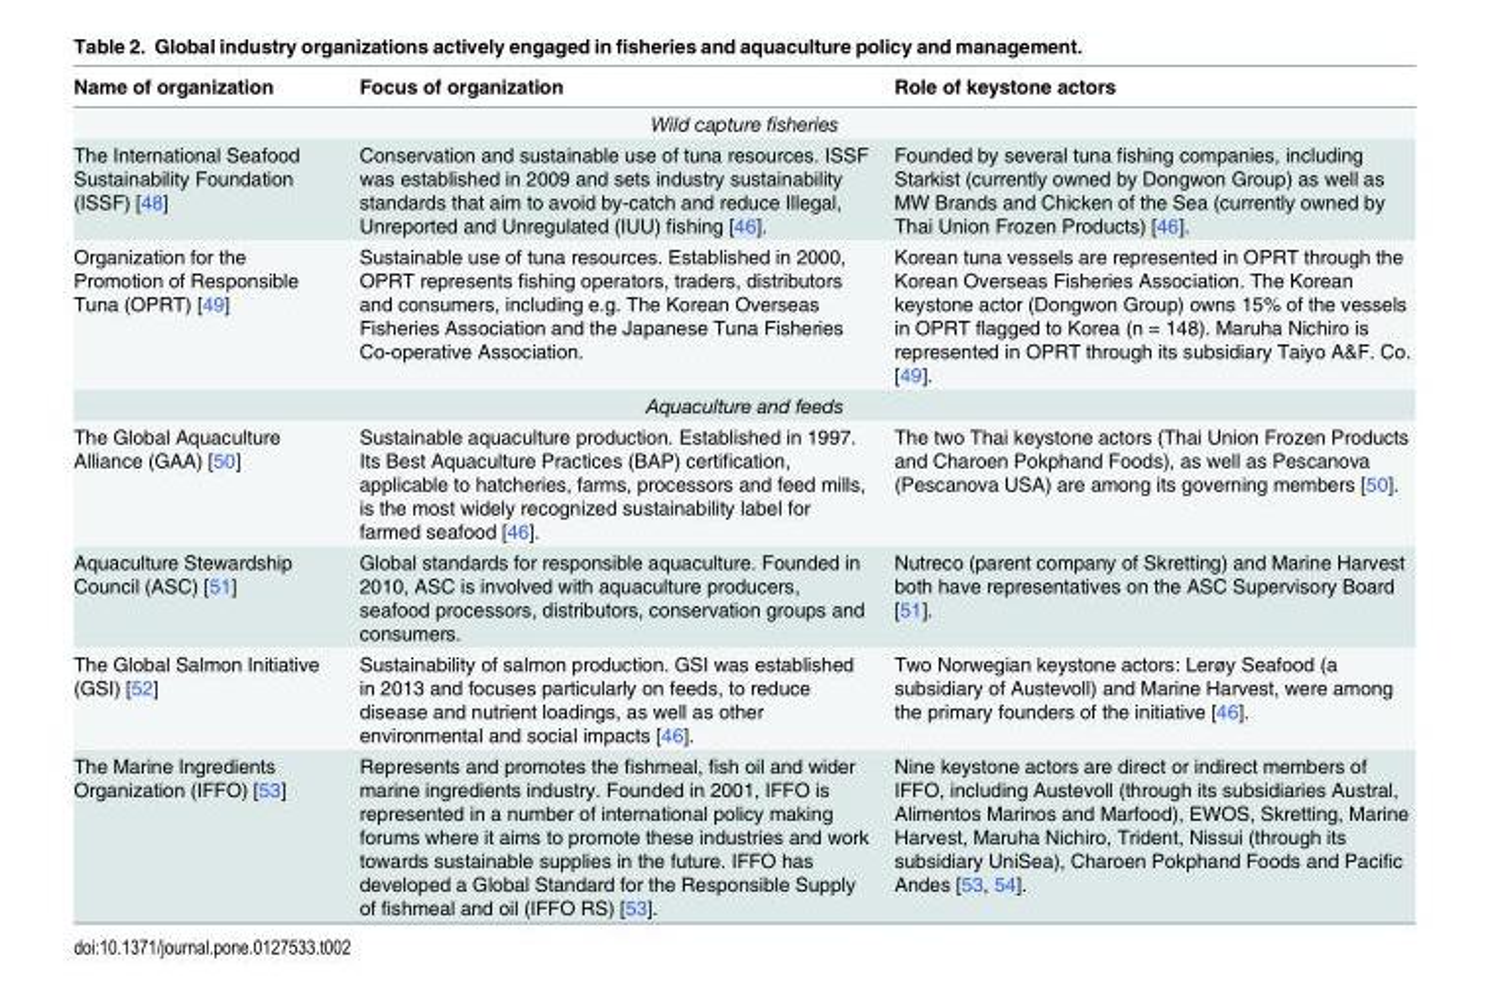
<table><thead><tr><td>Name of organization</td><td>Focus of organization</td><td>Role of keystone actors</td></tr></thead><tbody><tr><td colspan="3">Wild capture fisheries</td></tr><tr><td>The International Seafood Sustainability Foundation (ISSF) [48]</td><td>Conservation and sustainable use of tuna resources. ISSF was established in 2009 and sets industry sustainability standards that aim to avoid by-catch and reduce Illegal, Unreported and Unregulated (IUU) fishing [46].</td><td>Founded by several tuna fishing companies, including Starkist (currently owned by Dongwon Group) as well as MW Brands and Chicken of the Sea (currently owned by Thai Union Frozen Products) [46].</td></tr><tr><td>Organization for the Promotion of Responsible Tuna (OPRT) [49]</td><td>Sustainable use of tuna resources. Established in 2000, OPRT represents fishing operators, traders, distributors and consumers, including e.g. The Korean Overseas Fisheries Association and the Japanese Tuna Fisheries Co-operative Association.</td><td>Korean tuna vessels are represented in OPRT through the Korean Overseas Fisheries Association. The Korean keystone actor (Dongwon Group) owns 15% of the vessels in OPRT flagged to Korea (n = 148). Maruha Nichiro is represented in OPRT through its subsidiary Taiyo A&amp;F. Co. [49].</td></tr><tr><td colspan="3">Aquaculture and feeds</td></tr><tr><td>The Global Aquaculture Alliance (GAA) [50]</td><td>Sustainable aquaculture production. Established in 1997. Its Best Aquaculture Practices (BAP) certification, applicable to hatcheries, farms, processors and feed mills, is the most widely recognized sustainability label for farmed seafood [46].</td><td>The two Thai keystone actors (Thai Union Frozen Products and Charoen Pokphand Foods), as well as Pescanova (Pescanova USA) are among its governing members [50].</td></tr><tr><td>Aquaculture Stewardship Council (ASC) [51]</td><td>Global standards for responsible aquaculture. Founded in 2010, ASC is involved with aquaculture producers, seafood processors, distributors, conservation groups and consumers.</td><td>Nutreco (parent company of Skretting) and Marine Harvest both have representatives on the ASC Supervisory Board [51].</td></tr><tr><td>The Global Salmon Initiative (GSI) [52]</td><td>Sustainability of salmon production. GSI was established in 2013 and focuses particularly on feeds, to reduce disease and nutrient loadings, as well as other environmental and social impacts [46].</td><td>Two Norwegian keystone actors: Lerøy Seafood (a subsidiary of Austevoll) and Marine Harvest, were among the primary founders of the initiative [46].</td></tr><tr><td>The Marine Ingredients Organization (IFFO) [53]</td><td>Represents and promotes the fishmeal, fish oil and wider marine ingredients industry. Founded in 2001, IFFO is represented in a number of international policy making forums where it aims to promote these industries and work towards sustainable supplies in the future. IFFO has developed a Global Standard for the Responsible Supply of fishmeal and oil (IFFO RS) [53].</td><td>Nine keystone actors are direct or indirect members of IFFO, including Austevoll (through its subsidiaries Austral, Alimentos Marinos and Marfood), EWOS, Skretting, Marine Harvest, Maruha Nichiro, Trident, Nissui (through its subsidiary UniSea), Charoen Pokphand Foods and Pacific Andes [53, 54].</td></tr></tbody></table>